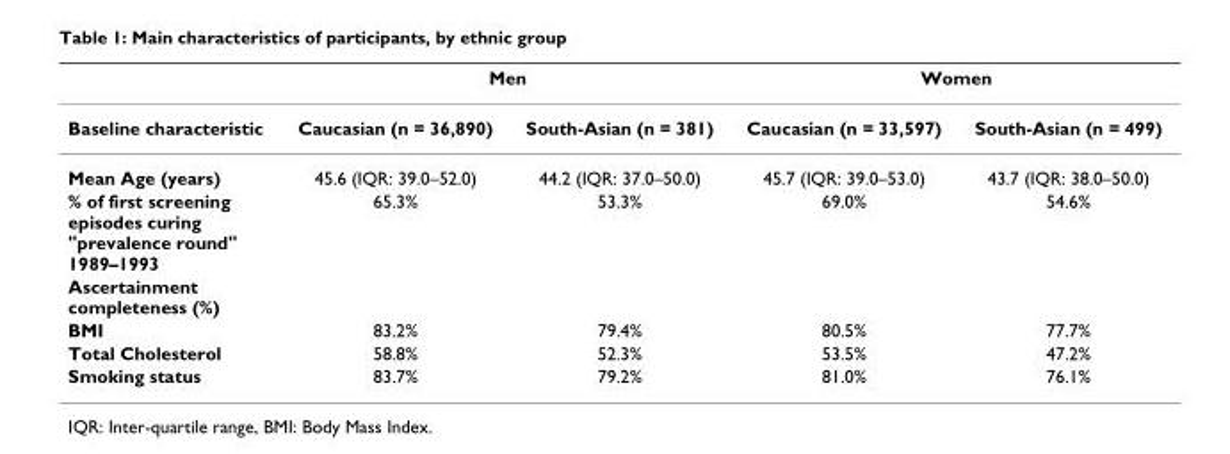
<table><thead><tr><td rowspan="2">Baseline characteristic</td><td colspan="2">Men</td><td colspan="2">Women</td></tr><tr><td>Caucasian (n = 36,890)</td><td>South-Asian (n = 381)</td><td>Caucasian (n = 33,597)</td><td>South-Asian (n = 499)</td></tr></thead><tbody><tr><td>Mean Age (years)</td><td>45.6 (IQR: 39.0–52.0)</td><td>44.2 (IQR: 37.0–50.0)</td><td>45.7 (IQR: 39.0–53.0)</td><td>43.7 (IQR: 38.0–50.0)</td></tr><tr><td>% of first screening episodes curing &quot;prevalence round&quot; 1989–1993</td><td>65.3%</td><td>53.3%</td><td>69.0%</td><td>54.6%</td></tr><tr><td colspan="5">Ascertainment completeness (%)</td></tr><tr><td>BMI</td><td>83.2%</td><td>79.4%</td><td>80.5%</td><td>77.7%</td></tr><tr><td>Total Cholesterol</td><td>58.8%</td><td>52.3%</td><td>53.5%</td><td>47.2%</td></tr><tr><td>Smoking status</td><td>83.7%</td><td>79.2%</td><td>81.0%</td><td>76.1%</td></tr></tbody></table>